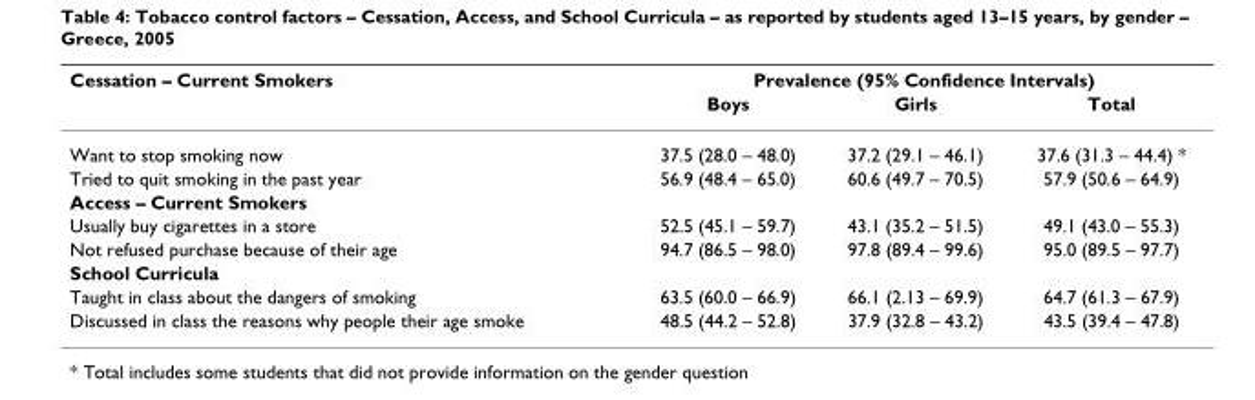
<table><thead><tr><td rowspan="2">Cessation – Current Smokers</td><td colspan="3">Prevalence (95% Confidence Intervals)</td></tr><tr><td>Boys</td><td>Girls</td><td>Total</td></tr></thead><tbody><tr><td>Want to stop smoking now</td><td>37.5 (28.0 – 48.0)</td><td>37.2 (29.1 – 46.1)</td><td>37.6 (31.3 – 44.4) *</td></tr><tr><td>Tried to quit smoking in the past year</td><td>56.9 (48.4 – 65.0)</td><td>60.6 (49.7 – 70.5)</td><td>57.9 (50.6 – 64.9)</td></tr><tr><td colspan="4">Access – Current Smokers</td></tr><tr><td>Usually buy cigarettes in a store</td><td>52.5 (45.1 – 59.7)</td><td>43.1 (35.2 – 51.5)</td><td>49.1 (43.0 – 55.3)</td></tr><tr><td>Not refused purchase because of their age</td><td>94.7 (86.5 – 98.0)</td><td>97.8 (89.4 – 99.6)</td><td>95.0 (89.5 – 97.7)</td></tr><tr><td colspan="4">School Curricula</td></tr><tr><td>Taught in class about the dangers of smoking</td><td>63.5 (60.0 – 66.9)</td><td>66.1 (2.13 – 69.9)</td><td>64.7 (61.3 – 67.9)</td></tr><tr><td>Discussed in class the reasons why people their age smoke</td><td>48.5 (44.2 – 52.8)</td><td>37.9 (32.8 – 43.2)</td><td>43.5 (39.4 – 47.8)</td></tr></tbody></table>